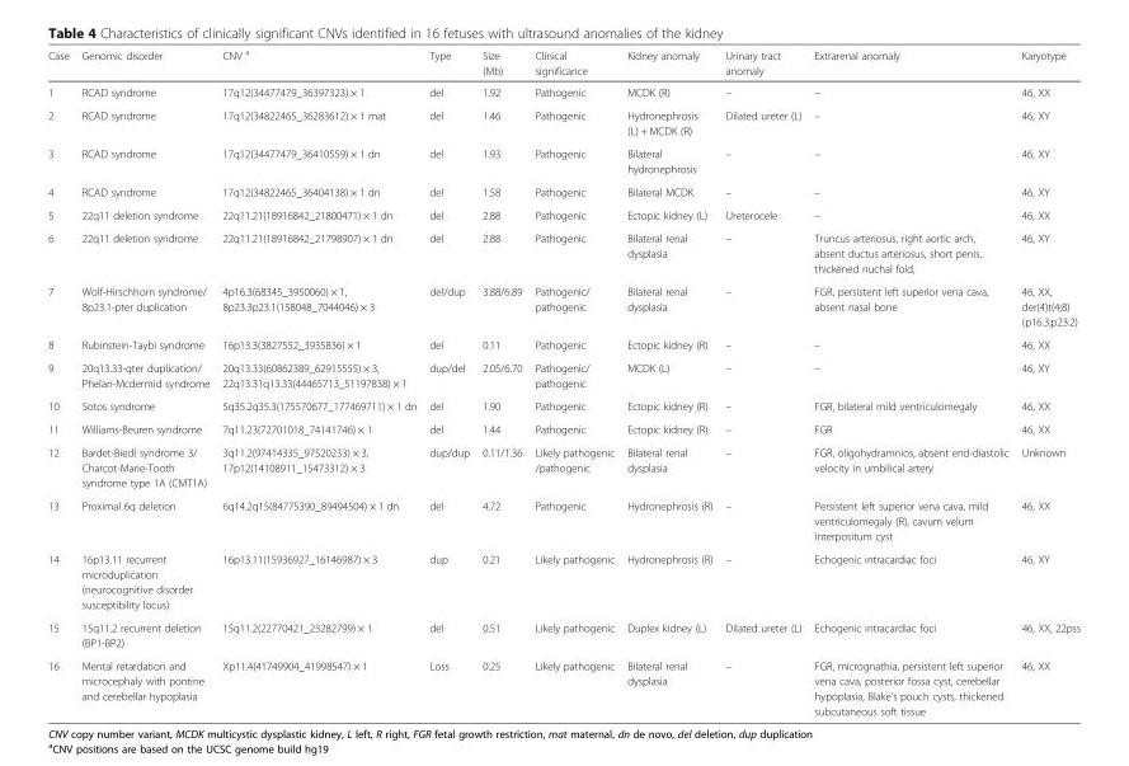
<table><thead><tr><td>Case</td><td>Genomic disorder</td><td>CNV <sup>a</sup></td><td>Type</td><td>Size (Mb)</td><td>Clinical significance</td><td>Kidney anomaly</td><td>Urinary tract anomaly</td><td>Extrarenal anomaly</td><td>Karyotype</td></tr></thead><tbody><tr><td>1</td><td>RCAD syndrome</td><td>17q12(34477479_36397323) × 1</td><td>del</td><td>1.92</td><td>Pathogenic</td><td>MCDK (R)</td><td>–</td><td>–</td><td>46, XX</td></tr><tr><td>2</td><td>RCAD syndrome</td><td>17q12(34822465_36283612) × 1 mat</td><td>del</td><td>1.46</td><td>Pathogenic</td><td>Hydronephrosis (L) + MCDK (R)</td><td>Dilated ureter (L)</td><td>–</td><td>46, XY</td></tr><tr><td>3</td><td>RCAD syndrome</td><td>17q12(34477479_36410559) × 1 dn</td><td>del</td><td>1.93</td><td>Pathogenic</td><td>Bilateral hydronephrosis</td><td>–</td><td>–</td><td>46, XY</td></tr><tr><td>4</td><td>RCAD syndrome</td><td>17q12(34822465_36404138) × 1 dn</td><td>del</td><td>1.58</td><td>Pathogenic</td><td>Bilateral MCDK</td><td>–</td><td>–</td><td>46, XY</td></tr><tr><td>5</td><td>22q11 deletion syndrome</td><td>22q11.21(18916842_21800471) × 1 dn</td><td>del</td><td>2.88</td><td>Pathogenic</td><td>Ectopic kidney (L)</td><td>Ureterocele</td><td>–</td><td>46, XX</td></tr><tr><td>6</td><td>22q11 deletion syndrome</td><td>22q11.21(18916842_21798907) × 1 dn</td><td>del</td><td>2.88</td><td>Pathogenic</td><td>Bilateral renal dysplasia</td><td>–</td><td>Truncus arteriosus, right aortic arch, absent ductus arteriosus, short penis, thickened nuchal fold,</td><td>46, XY</td></tr><tr><td>7</td><td>Wolf-Hirschhorn syndrome/ 8p23.1-pter duplication</td><td>4p16.3(68345_3950060) × 1, 8p23.3p23.1(158048_7044046) × 3</td><td>del/dup</td><td>3.88/6.89</td><td>Pathogenic/ pathogenic</td><td>Bilateral renal dysplasia</td><td>–</td><td>FGR, persistent left superior vena cava, absent nasal bone</td><td>46, XX, der(4)t(4;8) (p16.3;p23.2)</td></tr><tr><td>8</td><td>Rubinstein-Taybi syndrome</td><td>16p13.3(3827552_3935836) × 1</td><td>del</td><td>0.11</td><td>Pathogenic</td><td>Ectopic kidney (R)</td><td>–</td><td>–</td><td>46, XX</td></tr><tr><td>9</td><td>20q13.33-qter duplication/ Phelan-Mcdermid syndrome</td><td>20q13.33(60862389_62915555) × 3, 22q13.31q13.33(44465713_51197838) × 1</td><td>dup/del</td><td>2.05/6.70</td><td>Pathogenic/ pathogenic</td><td>MCDK (L)</td><td>–</td><td>–</td><td>46, XY</td></tr><tr><td>10</td><td>Sotos syndrome</td><td>5q35.2q35.3(175570677_177469711) × 1 dn</td><td>del</td><td>1.90</td><td>Pathogenic</td><td>Ectopic kidney (R)</td><td>–</td><td>FGR, bilateral mild ventriculomegaly</td><td>46, XX</td></tr><tr><td>11</td><td>Williams-Beuren syndrome</td><td>7q11.23(72701018_74141746) × 1</td><td>del</td><td>1.44</td><td>Pathogenic</td><td>Ectopic kidney (R)</td><td>–</td><td>FGR</td><td>46, XX</td></tr><tr><td>12</td><td>Bardet-Biedl syndrome 3/ Charcot-Marie-Tooth syndrome type 1A (CMT1A)</td><td>3q11.2(97414335_97520233) × 3, 17p12(14108911_15473312) × 3</td><td>dup/dup</td><td>0.11/1.36</td><td>Likely pathogenic /pathogenic</td><td>Bilateral renal dysplasia</td><td>–</td><td>FGR, oligohydramnios, absent end-diastolic velocity in umbilical artery</td><td>Unknown</td></tr><tr><td>13</td><td>Proximal 6q deletion</td><td>6q14.2q15(84775390_89494504) × 1 dn</td><td>del</td><td>4.72</td><td>Pathogenic</td><td>Hydronephrosis (R)</td><td>–</td><td>Persistent left superior vena cava, mild ventriculomegaly (R), cavum velum interpositum cyst</td><td>46, XX</td></tr><tr><td>14</td><td>16p13.11 recurrent microduplication (neurocognitive disorder susceptibility locus)</td><td>16p13.11(15936927_16146987) × 3</td><td>dup</td><td>0.21</td><td>Likely pathogenic</td><td>Hydronephrosis (R)</td><td>–</td><td>Echogenic intracardiac foci</td><td>46, XY</td></tr><tr><td>15</td><td>15q11.2 recurrent deletion (BP1-BP2)</td><td>15q11.2(22770421_23282799) × 1</td><td>del</td><td>0.51</td><td>Likely pathogenic</td><td>Duplex kidney (L)</td><td>Dilated ureter (L)</td><td>Echogenic intracardiac foci</td><td>46, XX, 22pss</td></tr><tr><td>16</td><td>Mental retardation and microcephaly with pontine and cerebellar hypoplasia</td><td>Xp11.4(41749904_41998547) × 1</td><td>Loss</td><td>0.25</td><td>Likely pathogenic</td><td>Bilateral renal dysplasia</td><td>–</td><td>FGR, micrognathia, persistent left superior vena cava, posterior fossa cyst, cerebellar hypoplasia, Blake’s pouch cysts, thickened subcutaneous soft tissue</td><td>46, XX</td></tr></tbody></table>